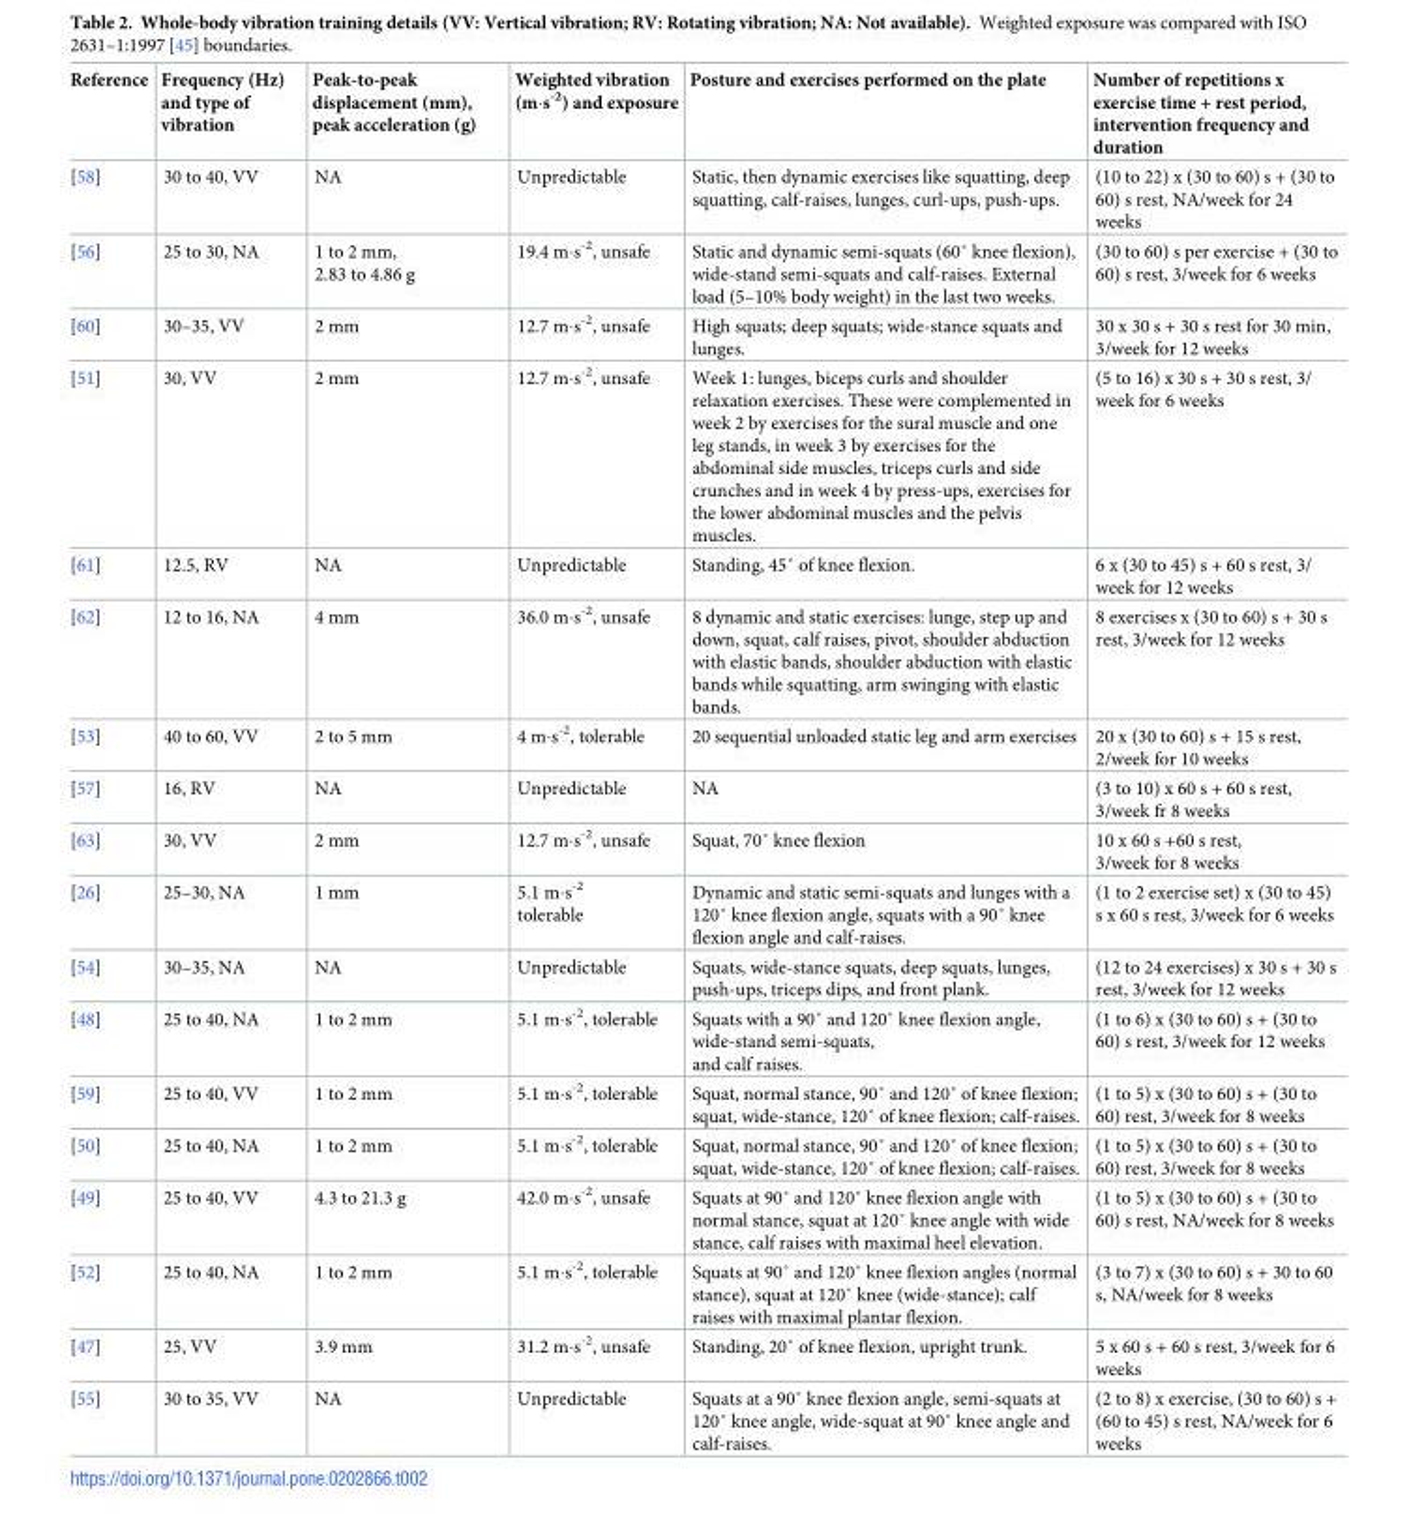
<table><thead><tr><td>Reference</td><td>Frequency (Hz) and type of vibration</td><td>Peak-to-peak displacement (mm), peak acceleration (g)</td><td>Weighted vibration (m∙s<sup>-2</sup>) and exposure</td><td>Posture and exercises performed on the plate</td><td>Number of repetitions x exercise time + rest period, intervention frequency and duration</td></tr></thead><tbody><tr><td>[58]</td><td>30 to 40, VV</td><td>NA</td><td>Unpredictable</td><td>Static, then dynamic exercises like squatting, deep squatting, calf-raises, lunges, curl-ups, push-ups.</td><td>(10 to 22) x (30 to 60) s + (30 to 60) s rest, NA/week for 24 weeks</td></tr><tr><td>[56]</td><td>25 to 30, NA</td><td>1 to 2 mm, 2.83 to 4.86 g</td><td>19.4 m∙s<sup>-2</sup>, unsafe</td><td>Static and dynamic semi-squats (60˚ knee flexion), wide-stand semi-squats and calf-raises. External load (5–10% body weight) in the last two weeks.</td><td>(30 to 60) s per exercise + (30 to 60) s rest, 3/week for 6 weeks</td></tr><tr><td>[60]</td><td>30–35, VV</td><td>2 mm</td><td>12.7 m∙s<sup>-2</sup>, unsafe</td><td>High squats; deep squats; wide-stance squats and lunges.</td><td>30 x 30 s + 30 s rest for 30 min, 3/week for 12 weeks</td></tr><tr><td>[51]</td><td>30, VV</td><td>2 mm</td><td>12.7 m∙s<sup>-2</sup>, unsafe</td><td>Week 1: lunges, biceps curls and shoulder relaxation exercises. These were complemented in week 2 by exercises for the sural muscle and one leg stands, in week 3 by exercises for the abdominal side muscles, triceps curls and side crunches and in week 4 by press-ups, exercises for the lower abdominal muscles and the pelvis muscles.</td><td>(5 to 16) x 30 s + 30 s rest, 3/ week for 6 weeks</td></tr><tr><td>[61]</td><td>12.5, RV</td><td>NA</td><td>Unpredictable</td><td>Standing, 45˚ of knee flexion.</td><td>6 x (30 to 45) s + 60 s rest, 3/ week for 12 weeks</td></tr><tr><td>[62]</td><td>12 to 16, NA</td><td>4 mm</td><td>36.0 m∙s<sup>-2</sup>, unsafe</td><td>8 dynamic and static exercises: lunge, step up and down, squat, calf raises, pivot, shoulder abduction with elastic bands, shoulder abduction with elastic bands while squatting, arm swinging with elastic bands.</td><td>8 exercises x (30 to 60) s + 30 s rest, 3/week for 12 weeks</td></tr><tr><td>[53]</td><td>40 to 60, VV</td><td>2 to 5 mm</td><td>4 m∙s<sup>-2</sup>, tolerable</td><td>20 sequential unloaded static leg and arm exercises</td><td>20 x (30 to 60) s + 15 s rest, 2/week for 10 weeks</td></tr><tr><td>[57]</td><td>16, RV</td><td>NA</td><td>Unpredictable</td><td>NA</td><td>(3 to 10) x 60 s + 60 s rest, 3/week fr 8 weeks</td></tr><tr><td>[63]</td><td>30, VV</td><td>2 mm</td><td>12.7 m∙s<sup>-2</sup>, unsafe</td><td>Squat, 70˚ knee flexion</td><td>10 x 60 s +60 s rest, 3/week for 8 weeks</td></tr><tr><td>[26]</td><td>25–30, NA</td><td>1 mm</td><td>5.1 m∙s<sup>-2</sup> tolerable</td><td>Dynamic and static semi-squats and lunges with a 120˚ knee flexion angle, squats with a 90˚ knee flexion angle and calf-raises.</td><td>(1 to 2 exercise set) x (30 to 45) s x 60 s rest, 3/week for 6 weeks</td></tr><tr><td>[54]</td><td>30–35, NA</td><td>NA</td><td>Unpredictable</td><td>Squats, wide-stance squats, deep squats, lunges, push-ups, triceps dips, and front plank.</td><td>(12 to 24 exercises) x 30 s + 30 s rest, 3/week for 12 weeks</td></tr><tr><td>[48]</td><td>25 to 40, NA</td><td>1 to 2 mm</td><td>5.1 m∙s<sup>-2</sup>, tolerable</td><td>Squats with a 90˚ and 120˚ knee flexion angle, wide-stand semi-squats, and calf raises.</td><td>(1 to 6) x (30 to 60) s + (30 to 60) s rest, 3/week for 12 weeks</td></tr><tr><td>[59]</td><td>25 to 40, VV</td><td>1 to 2 mm</td><td>5.1 m∙s<sup>-2</sup>, tolerable</td><td>Squat, normal stance, 90˚ and 120˚ of knee flexion; squat, wide-stance, 120˚ of knee flexion; calf-raises.</td><td>(1 to 5) x (30 to 60) s + (30 to 60) rest, 3/week for 8 weeks</td></tr><tr><td>[50]</td><td>25 to 40, NA</td><td>1 to 2 mm</td><td>5.1 m∙s<sup>-2</sup>, tolerable</td><td>Squat, normal stance, 90˚ and 120˚ of knee flexion; squat, wide-stance, 120˚ of knee flexion; calf-raises.</td><td>(1 to 5) x (30 to 60) s + (30 to 60) rest, 3/week for 8 weeks</td></tr><tr><td>[49]</td><td>25 to 40, VV</td><td>4.3 to 21.3 g</td><td>42.0 m∙s<sup>-2</sup>, unsafe</td><td>Squats at 90˚ and 120˚ knee flexion angle with normal stance, squat at 120˚ knee angle with wide stance, calf raises with maximal heel elevation.</td><td>(1 to 5) x (30 to 60) s + (30 to 60) s rest, NA/week for 8 weeks</td></tr><tr><td>[52]</td><td>25 to 40, NA</td><td>1 to 2 mm</td><td>5.1 m∙s<sup>-2</sup>, tolerable</td><td>Squats at 90˚ and 120˚ knee flexion angles (normal stance), squat at 120˚ knee (wide-stance); calf raises with maximal plantar flexion.</td><td>(3 to 7) x (30 to 60) s + 30 to 60 s, NA/week for 8 weeks</td></tr><tr><td>[47]</td><td>25, VV</td><td>3.9 mm</td><td>31.2 m∙s<sup>-2</sup>, unsafe</td><td>Standing, 20˚ of knee flexion, upright trunk.</td><td>5 x 60 s + 60 s rest, 3/week for 6 weeks</td></tr><tr><td>[55]</td><td>30 to 35, VV</td><td>NA</td><td>Unpredictable</td><td>Squats at a 90˚ knee flexion angle, semi-squats at 120˚ knee angle, wide-squat at 90˚ knee angle and calf-raises.</td><td>(2 to 8) x exercise, (30 to 60) s + (60 to 45) s rest, NA/week for 6 weeks</td></tr></tbody></table>